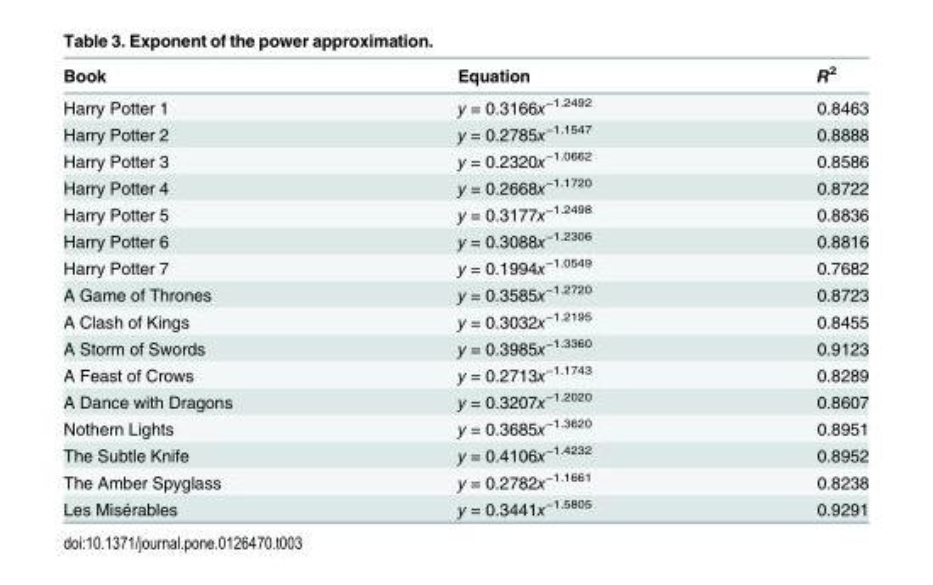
<table><thead><tr><td>Book</td><td>Equation</td><td>R<sup>2</sup></td></tr></thead><tbody><tr><td>Harry Potter 1</td><td>y = 0.3166x<sup>−1.2492</sup></td><td>0.8463</td></tr><tr><td>Harry Potter 2</td><td>y = 0.2785x<sup>−1.1547</sup></td><td>0.8888</td></tr><tr><td>Harry Potter 3</td><td>y = 0.2320x<sup>−1.0662</sup></td><td>0.8586</td></tr><tr><td>Harry Potter 4</td><td>y = 0.2668x<sup>−1.1720</sup></td><td>0.8722</td></tr><tr><td>Harry Potter 5</td><td>y = 0.3177x<sup>−1.2498</sup></td><td>0.8836</td></tr><tr><td>Harry Potter 6</td><td>y = 0.3088x<sup>−1.2306</sup></td><td>0.8816</td></tr><tr><td>Harry Potter 7</td><td>y = 0.1994x<sup>−1.0549</sup></td><td>0.7682</td></tr><tr><td>A Game of Thrones</td><td>y = 0.3585x<sup>−1.2720</sup></td><td>0.8723</td></tr><tr><td>A Clash of Kings</td><td>y = 0.3032x<sup>−1.2195</sup></td><td>0.8455</td></tr><tr><td>A Storm of Swords</td><td>y = 0.3985x<sup>−1.3360</sup></td><td>0.9123</td></tr><tr><td>A Feast of Crows</td><td>y = 0.2713x<sup>−1.1743</sup></td><td>0.8289</td></tr><tr><td>A Dance with Dragons</td><td>y = 0.3207x<sup>−1.2020</sup></td><td>0.8607</td></tr><tr><td>Nothern Lights</td><td>y = 0.3685x<sup>−1.3620</sup></td><td>0.8951</td></tr><tr><td>The Subtle Knife</td><td>y = 0.4106x<sup>−1.4232</sup></td><td>0.8952</td></tr><tr><td>The Amber Spyglass</td><td>y = 0.2782x<sup>−1.1661</sup></td><td>0.8238</td></tr><tr><td>Les Misérables</td><td>y = 0.3441x<sup>−1.5805</sup></td><td>0.9291</td></tr></tbody></table>